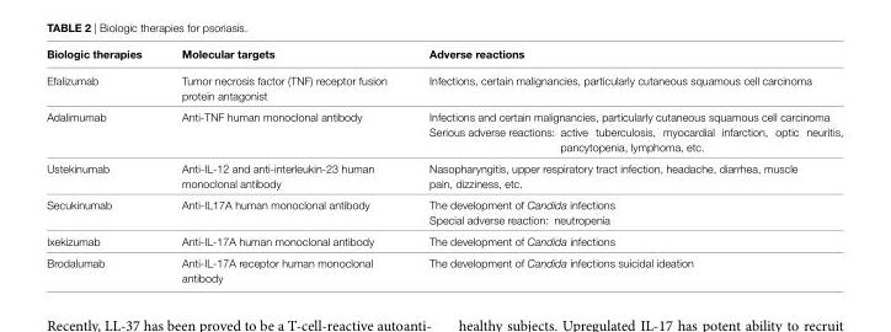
<table><thead><tr><td>biologic therapies</td><td>Molecular targets</td><td>Adverse reactions</td></tr></thead><tbody><tr><td>Efalizumab</td><td>Tumor necrosis factor (TNF) receptor fusion protein antagonist</td><td>Infections, certain malignancies, particularly cutaneous squamous cell carcinoma</td></tr><tr><td>Adalimumab</td><td>Anti-TNF human monoclonal antibody</td><td>Infections and certain malignancies, particularly cutaneous squamous cell carcinoma Serious adverse reactions: active tuberculosis, myocardial infarction, optic neuritis, pancytopenia, lymphoma, etc.</td></tr><tr><td>Ustekinumab</td><td>Anti-IL-12 and anti-interleukin-23 human monoclonal antibody</td><td>Nasopharyngitis, upper respiratory tract infection, headache, diarrhea, muscle pain, dizziness, etc.</td></tr><tr><td>Secukinumab</td><td>Anti-IL17A human monoclonal antibody</td><td>The development of Candida infections Special adverse reaction: neutropenia</td></tr><tr><td>Ixekizumab</td><td>Anti-IL-17A human monoclonal antibody</td><td>The development of Candida infections</td></tr><tr><td>Brodalumab</td><td>Anti-IL-17A receptor human monoclonal antibody</td><td>The development of Candida infections suicidal ideation</td></tr></tbody></table>